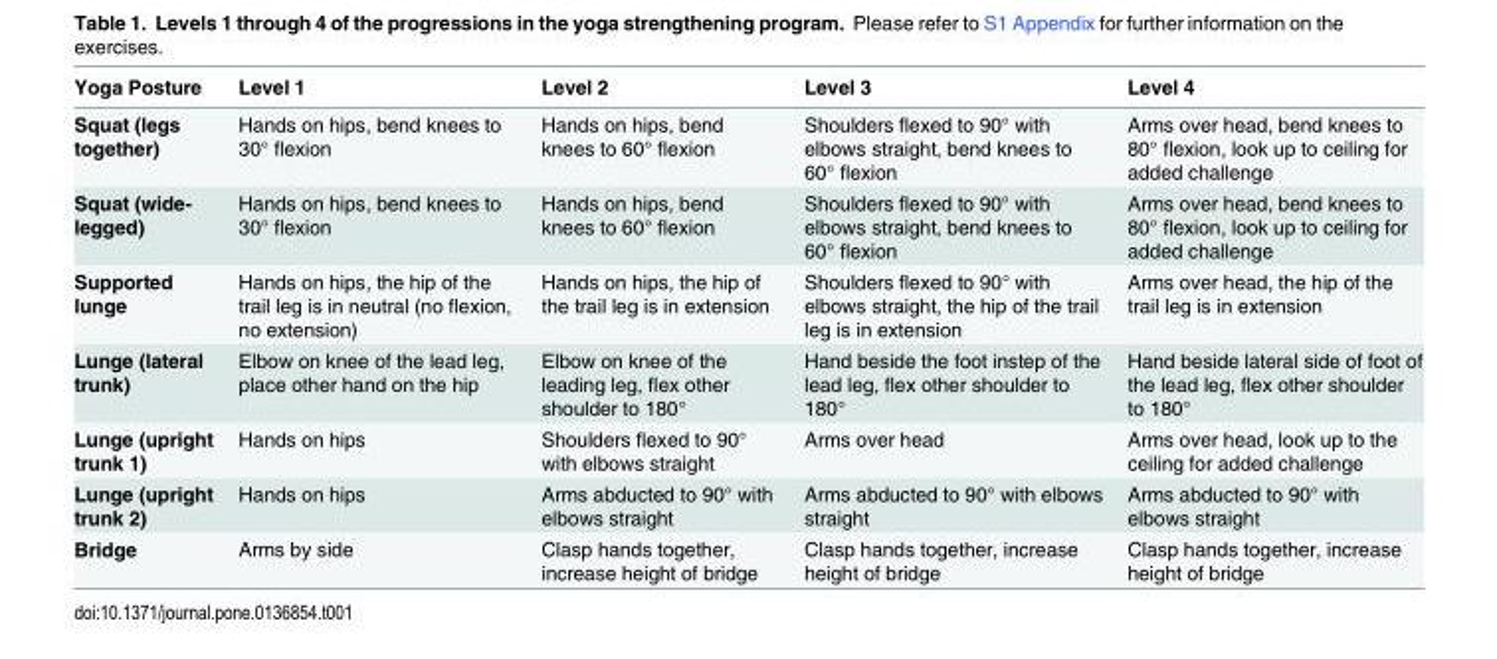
<table><thead><tr><td>Yoga Posture</td><td>Level 1</td><td>Level 2</td><td>Level 3</td><td>Level 4</td></tr></thead><tbody><tr><td>Squat (legs together)</td><td>Hands on hips, bend knees to 30° flexion</td><td>Hands on hips, bend knees to 60° flexion</td><td>Shoulders flexed to 90° with elbows straight, bend knees to 60° flexion</td><td>Arms over head, bend knees to 80° flexion, look up to ceiling for added challenge</td></tr><tr><td>Squat (wide- legged)</td><td>Hands on hips, bend knees to 30° flexion</td><td>Hands on hips, bend knees to 60° flexion</td><td>Shoulders flexed to 90° with elbows straight, bend knees to 60° flexion</td><td>Arms over head, bend knees to 80° flexion, look up to ceiling for added challenge</td></tr><tr><td>Supported lunge</td><td>Hands on hips, the hip of the trail leg is in neutral (no flexion, no extension)</td><td>Hands on hips, the hip of the trail leg is in extension</td><td>Shoulders flexed to 90° with elbows straight, the hip of the trail leg is in extension</td><td>Arms over head, the hip of the trail leg is in extension</td></tr><tr><td>Lunge (lateral trunk)</td><td>Elbow on knee of the lead leg, place other hand on the hip</td><td>Elbow on knee of the leading leg, flex other shoulder to 180°</td><td>Hand beside the foot instep of the lead leg, flex other shoulder to 180°</td><td>Hand beside lateral side of foot of the lead leg, flex other shoulder to 180°</td></tr><tr><td>Lunge (upright trunk 1)</td><td>Hands on hips</td><td>Shoulders flexed to 90° with elbows straight</td><td>Arms over head</td><td>Arms over head, look up to the ceiling for added challenge</td></tr><tr><td>Lunge (upright trunk 2)</td><td>Hands on hips</td><td>Arms abducted to 90° with elbows straight</td><td>Arms abducted to 90° with elbows straight</td><td>Arms abducted to 90° with elbows straight</td></tr><tr><td>Bridge</td><td>Arms by side</td><td>Clasp hands together, increase height of bridge</td><td>Clasp hands together, increase height of bridge</td><td>Clasp hands together, increase height of bridge</td></tr></tbody></table>